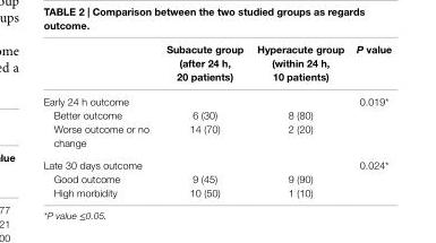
<table><thead><tr><td></td><td>subacute group (after 24 h, 20 patients)</td><td>hyperacute group (within 24 h, 10 patients)</td><td>P value</td></tr></thead><tbody><tr><td>Early 24 h outcome</td><td></td><td></td><td>0.019*</td></tr><tr><td>Better outcome</td><td>6 (30)</td><td>8 (80)</td><td></td></tr><tr><td>Worse outcome or no change</td><td>14 (70)</td><td>2 (20)</td><td></td></tr><tr><td>Late 30 days outcome</td><td></td><td></td><td>0.024*</td></tr><tr><td>Good outcome</td><td>9 (45)</td><td>9 (90)</td><td></td></tr><tr><td>High morbidity</td><td>10 (50)</td><td>1 (10)</td><td></td></tr></tbody></table>